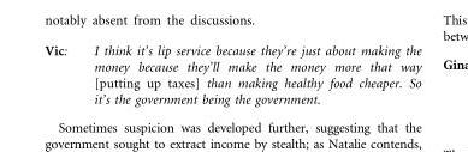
<table><tbody><tr><td>Vic:</td><td>I think it’s lip service because they’re just about making the money because they’ll make the money more that way [putting up taxes] than making healthy food cheaper. So it’s the government being the government.</td></tr></tbody></table>